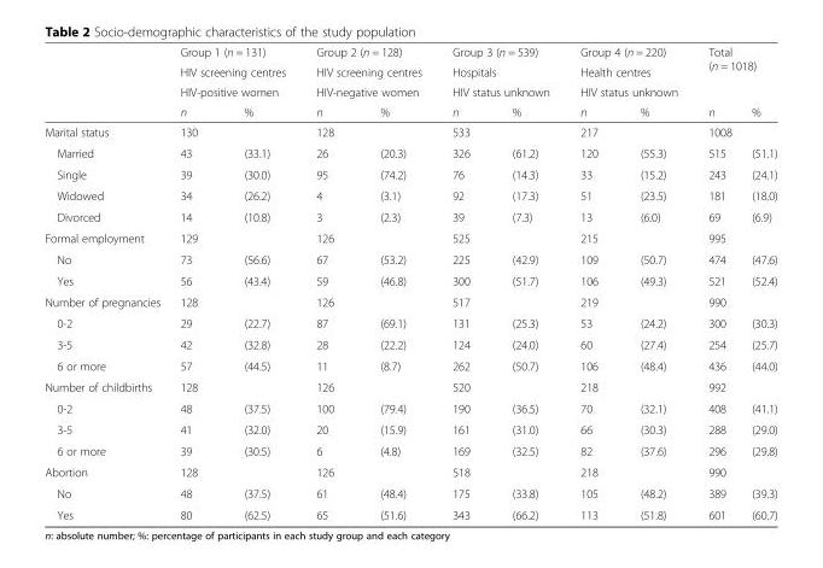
<table><thead><tr><td rowspan="4"></td><td rowspan="3" colspan="2">Group 1 (n = 131) HIV screening centres HIV-positive women</td><td rowspan="3" colspan="2">Group 2 (n = 128) HIV screening centres HIV-negative women</td><td rowspan="3" colspan="2">Group 3 (n = 539) Hospitals HIV status unknown</td><td rowspan="3" colspan="2">Group 4 (n = 220) Health centres HIV status unknown</td><td rowspan="3" colspan="2">Total (n = 1018)</td></tr><tr></tr><tr></tr><tr><td>n</td><td>%</td><td>n</td><td>%</td><td>n</td><td>%</td><td>n</td><td>%</td><td>n</td><td>%</td></tr></thead><tbody><tr><td>Marital status</td><td>130</td><td></td><td>128</td><td></td><td>533</td><td></td><td>217</td><td></td><td>1008</td><td></td></tr><tr><td>Married</td><td>43</td><td>(33.1)</td><td>26</td><td>(20.3)</td><td>326</td><td>(61.2)</td><td>120</td><td>(55.3)</td><td>515</td><td>(51.1)</td></tr><tr><td>Single</td><td>39</td><td>(30.0)</td><td>95</td><td>(74.2)</td><td>76</td><td>(14.3)</td><td>33</td><td>(15.2)</td><td>243</td><td>(24.1)</td></tr><tr><td>Widowed</td><td>34</td><td>(26.2)</td><td>4</td><td>(3.1)</td><td>92</td><td>(17.3)</td><td>51</td><td>(23.5)</td><td>181</td><td>(18.0)</td></tr><tr><td>Divorced</td><td>14</td><td>(10.8)</td><td>3</td><td>(2.3)</td><td>39</td><td>(7.3)</td><td>13</td><td>(6.0)</td><td>69</td><td>(6.9)</td></tr><tr><td>Formal employment</td><td>129</td><td></td><td>126</td><td></td><td>525</td><td></td><td>215</td><td></td><td>995</td><td></td></tr><tr><td>No</td><td>73</td><td>(56.6)</td><td>67</td><td>(53.2)</td><td>225</td><td>(42.9)</td><td>109</td><td>(50.7)</td><td>474</td><td>(47.6)</td></tr><tr><td>Yes</td><td>56</td><td>(43.4)</td><td>59</td><td>(46.8)</td><td>300</td><td>(51.7)</td><td>106</td><td>(49.3)</td><td>521</td><td>(52.4)</td></tr><tr><td>Number of pregnancies</td><td>128</td><td></td><td>126</td><td></td><td>517</td><td></td><td>219</td><td></td><td>990</td><td></td></tr><tr><td>0-2</td><td>29</td><td>(22.7)</td><td>87</td><td>(69.1)</td><td>131</td><td>(25.3)</td><td>53</td><td>(24.2)</td><td>300</td><td>(30.3)</td></tr><tr><td>3-5</td><td>42</td><td>(32.8)</td><td>28</td><td>(22.2)</td><td>124</td><td>(24.0)</td><td>60</td><td>(27.4)</td><td>254</td><td>(25.7)</td></tr><tr><td>6 or more</td><td>57</td><td>(44.5)</td><td>11</td><td>(8.7)</td><td>262</td><td>(50.7)</td><td>106</td><td>(48.4)</td><td>436</td><td>(44.0)</td></tr><tr><td>Number of childbirths</td><td>128</td><td></td><td>126</td><td></td><td>520</td><td></td><td>218</td><td></td><td>992</td><td></td></tr><tr><td>0-2</td><td>48</td><td>(37.5)</td><td>100</td><td>(79.4)</td><td>190</td><td>(36.5)</td><td>70</td><td>(32.1)</td><td>408</td><td>(41.1)</td></tr><tr><td>3-5</td><td>41</td><td>(32.0)</td><td>20</td><td>(15.9)</td><td>161</td><td>(31.0)</td><td>66</td><td>(30.3)</td><td>288</td><td>(29.0)</td></tr><tr><td>6 or more</td><td>39</td><td>(30.5)</td><td>6</td><td>(4.8)</td><td>169</td><td>(32.5)</td><td>82</td><td>(37.6)</td><td>296</td><td>(29.8)</td></tr><tr><td>Abortion</td><td>128</td><td></td><td>126</td><td></td><td>518</td><td></td><td>218</td><td></td><td>990</td><td></td></tr><tr><td>No</td><td>48</td><td>(37.5)</td><td>61</td><td>(48.4)</td><td>175</td><td>(33.8)</td><td>105</td><td>(48.2)</td><td>389</td><td>(39.3)</td></tr><tr><td>Yes</td><td>80</td><td>(62.5)</td><td>65</td><td>(51.6)</td><td>343</td><td>(66.2)</td><td>113</td><td>(51.8)</td><td>601</td><td>(60.7)</td></tr></tbody></table>